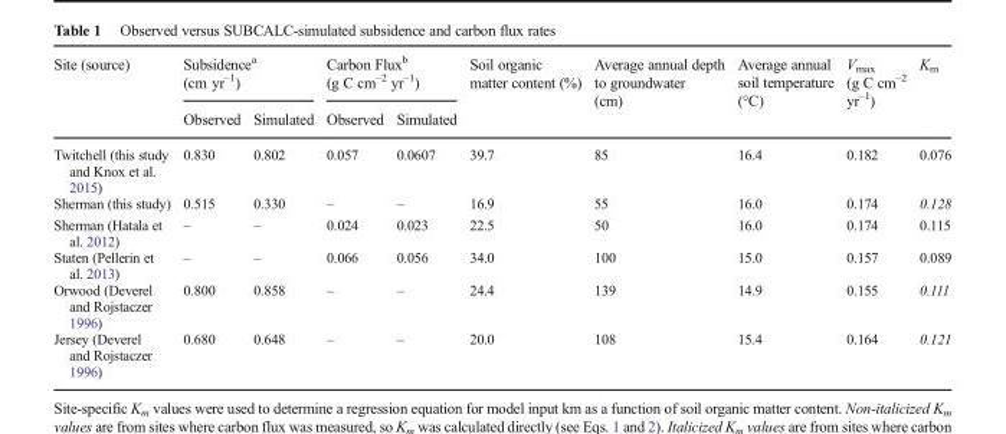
<table><thead><tr><td rowspan="2">Site (source)</td><td colspan="2">Subsidence<sup>a</sup> (cm yr<sup>–1</sup>)</td><td colspan="2">Carbon Flux<sup>b</sup> (g C cm<sup>–2</sup> yr<sup>–1</sup>)</td><td rowspan="2">Soil organic matter content (%)</td><td rowspan="2">Average annual depth to groundwater (cm)</td><td rowspan="2">Average annual soil temperature (°C)</td><td rowspan="2">V<sub>max</sub> (g C cm<sup>–2</sup> yr<sup>–1</sup>)</td><td rowspan="2">K<sub>m</sub></td></tr><tr><td>Observed</td><td>Simulated</td><td>Observed</td><td>Simulated</td></tr></thead><tbody><tr><td>Twitchell (this study and Knox et al. 2015)</td><td>0.830</td><td>0.802</td><td>0.057</td><td>0.0607</td><td>39.7</td><td>85</td><td>16.4</td><td>0.182</td><td>0.076</td></tr><tr><td>Sherman (this study)</td><td>0.515</td><td>0.330</td><td>–</td><td>–</td><td>16.9</td><td>55</td><td>16.0</td><td>0.174</td><td>0.128</td></tr><tr><td>Sherman (Hatala et al. 2012)</td><td>–</td><td>–</td><td>0.024</td><td>0.023</td><td>22.5</td><td>50</td><td>16.0</td><td>0.174</td><td>0.115</td></tr><tr><td>Staten (Pellerin et al. 2013)</td><td>–</td><td>–</td><td>0.066</td><td>0.056</td><td>34.0</td><td>100</td><td>15.0</td><td>0.157</td><td>0.089</td></tr><tr><td>Orwood (Deverel and Rojstaczer 1996)</td><td>0.800</td><td>0.858</td><td>–</td><td>–</td><td>24.4</td><td>139</td><td>14.9</td><td>0.155</td><td>0.111</td></tr><tr><td>Jersey (Deverel and Rojstaczer 1996)</td><td>0.680</td><td>0.648</td><td>–</td><td>–</td><td>20.0</td><td>108</td><td>15.4</td><td>0.164</td><td>0.121</td></tr></tbody></table>